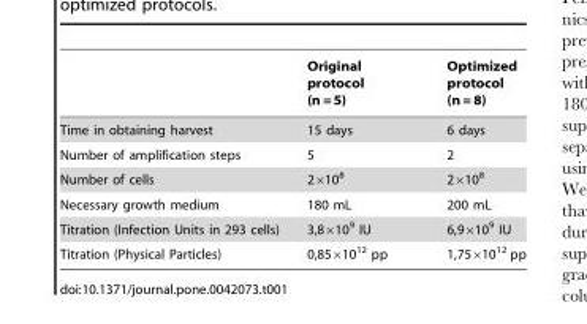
<table><thead><tr><td></td><td>Original protocol (n = 5)</td><td>Optimized protocol (n = 8)</td></tr></thead><tbody><tr><td>Time in obtaining harvest</td><td>15 days</td><td>6 days</td></tr><tr><td>Number of amplification steps</td><td>5</td><td>2</td></tr><tr><td>Number of cells</td><td>2×10<sup>8</sup></td><td>2×10<sup>8</sup></td></tr><tr><td>Necessary growth medium</td><td>180 mL</td><td>200 mL</td></tr><tr><td>Titration (Infection Units in 293 cells)</td><td>3,8×10<sup>9</sup> IU</td><td>6,9×10<sup>9</sup> IU</td></tr><tr><td>Titration (Physical Particles)</td><td>0,85×10<sup>12</sup> pp</td><td>1,75×10<sup>12</sup> pp</td></tr></tbody></table>